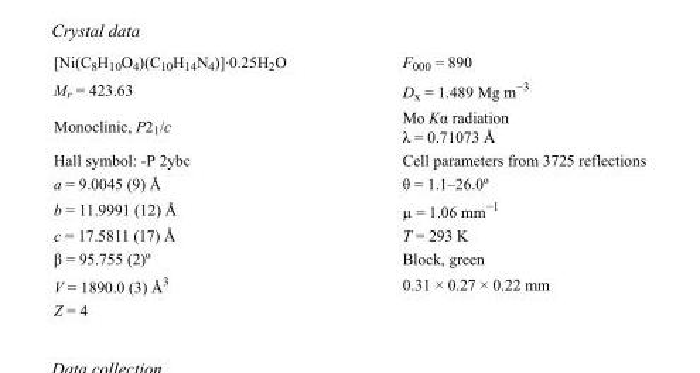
<table><tbody><tr><td>[Ni(C<sub>8</sub>H<sub>10</sub>O<sub>4</sub>)(C<sub>10</sub>H<sub>14</sub>N<sub>4</sub>)]·0.25H<sub>2</sub>O</td><td>F000 = 890</td></tr><tr><td>M<sub>r</sub> = 423.63</td><td>D<sub>x</sub> = 1.489 Mg m<sup>−3</sup></td></tr><tr><td>Monoclinic, P2<sub>1</sub>/c</td><td>Mo Kα radiation λ = 0.71073 Å</td></tr><tr><td>Hall symbol: -P 2ybc</td><td>Cell parameters from 3725 reflections</td></tr><tr><td>a = 9.0045 (9) Å</td><td>θ = 1.1–26.0º</td></tr><tr><td>b = 11.9991 (12) Å</td><td>µ = 1.06 mm<sup>−1</sup></td></tr><tr><td>c = 17.5811 (17) Å</td><td>T = 293 K</td></tr><tr><td>β = 95.755 (2)º</td><td>Block, green</td></tr><tr><td>V = 1890.0 (3) Å<sup>3</sup></td><td>0.31 × 0.27 × 0.22 mm</td></tr><tr><td>Z = 4</td><td></td></tr></tbody></table>